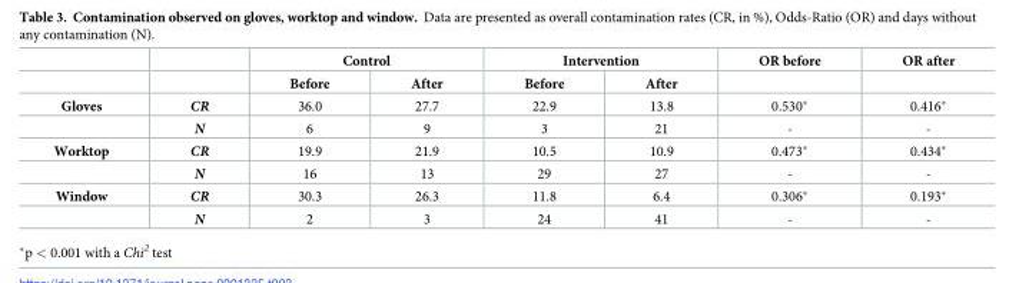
<table><thead><tr><td rowspan="2"></td><td rowspan="2"></td><td colspan="2">Control</td><td colspan="2">Intervention</td><td rowspan="2">OR before</td><td rowspan="2">OR after</td></tr><tr><td>Before</td><td>After</td><td>Before</td><td>After</td></tr></thead><tbody><tr><td rowspan="2">Gloves</td><td>CR</td><td>36.0</td><td>27.7</td><td>22.9</td><td>13.8</td><td>0.530*</td><td>0.416*</td></tr><tr><td>N</td><td>6</td><td>9</td><td>3</td><td>21</td><td>-</td><td>-</td></tr><tr><td rowspan="2">Worktop</td><td>CR</td><td>19.9</td><td>21.9</td><td>10.5</td><td>10.9</td><td>0.473*</td><td>0.434*</td></tr><tr><td>N</td><td>16</td><td>13</td><td>29</td><td>27</td><td>-</td><td>-</td></tr><tr><td rowspan="2">Window</td><td>CR</td><td>30.3</td><td>26.3</td><td>11.8</td><td>6.4</td><td>0.306*</td><td>0.193*</td></tr><tr><td>N</td><td>2</td><td>3</td><td>24</td><td>41</td><td>-</td><td>-</td></tr></tbody></table>